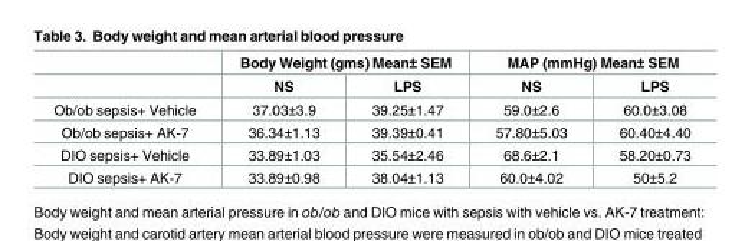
<table><thead><tr><td rowspan="2"></td><td colspan="2">Body Weight (gms) Mean± SEM</td><td colspan="2">MAP (mmHg) Mean± SEM</td></tr><tr><td>NS</td><td>LPS</td><td>NS</td><td>LPS</td></tr></thead><tbody><tr><td>Ob/ob sepsis+ Vehicle</td><td>37.03±3.9</td><td>39.25±1.47</td><td>59.0±2.6</td><td>60.0±3.08</td></tr><tr><td>Ob/ob sepsis+ AK-7</td><td>36.34±1.13</td><td>39.39±0.41</td><td>57.80±5.03</td><td>60.40±4.40</td></tr><tr><td>DIO sepsis+ Vehicle</td><td>33.89±1.03</td><td>35.54±2.46</td><td>68.6±2.1</td><td>58.20±0.73</td></tr><tr><td>DIO sepsis+ AK-7</td><td>33.89±0.98</td><td>38.04±1.13</td><td>60.0±4.02</td><td>50±5.2</td></tr></tbody></table>